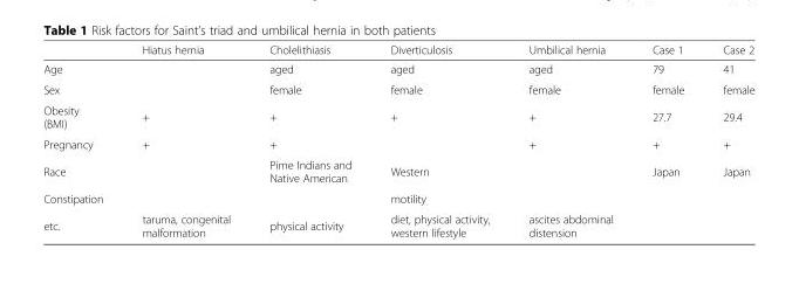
<table><thead><tr><td></td><td>Hiatus hernia</td><td>Cholelithiasis</td><td>Diverticulosis</td><td>Umbilical hernia</td><td>Case 1</td><td>Case 2</td></tr></thead><tbody><tr><td>Age</td><td></td><td>aged</td><td>aged</td><td>aged</td><td>79</td><td>41</td></tr><tr><td>Sex</td><td></td><td>female</td><td>female</td><td>female</td><td>female</td><td>female</td></tr><tr><td>Obesity (BMI)</td><td>+</td><td>+</td><td>+</td><td>+</td><td>27.7</td><td>29.4</td></tr><tr><td>Pregnancy</td><td>+</td><td>+</td><td></td><td>+</td><td>+</td><td>+</td></tr><tr><td>Race</td><td></td><td>Pime Indians and Native American</td><td>Western</td><td></td><td>Japan</td><td>Japan</td></tr><tr><td>Constipation</td><td></td><td></td><td>motility</td><td></td><td></td><td></td></tr><tr><td>etc.</td><td>taruma, congenital malformation</td><td>physical activity</td><td>diet, physical activity, western lifestyle</td><td>ascites abdominal distension</td><td></td><td></td></tr></tbody></table>